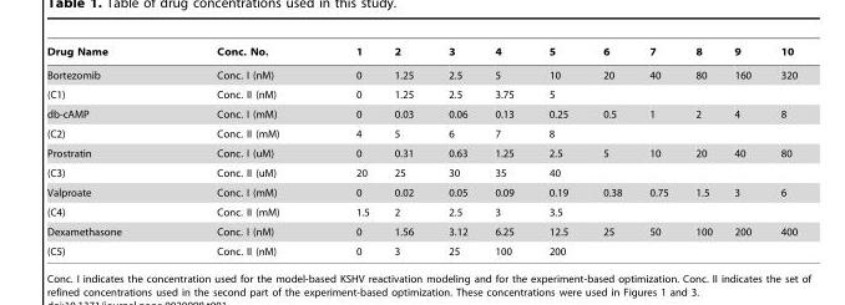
<table><thead><tr><td>Drug Name</td><td>Conc. No.</td><td>1</td><td>2</td><td>3</td><td>4</td><td>5</td><td>6</td><td>7</td><td>8</td><td>9</td><td>10</td></tr></thead><tbody><tr><td>Bortezomib</td><td>Conc. I (nM)</td><td>0</td><td>1.25</td><td>2.5</td><td>5</td><td>10</td><td>20</td><td>40</td><td>80</td><td>160</td><td>320</td></tr><tr><td>(C1)</td><td>Conc. II (nM)</td><td>0</td><td>1.25</td><td>2.5</td><td>3.75</td><td>5</td><td></td><td></td><td></td><td></td><td></td></tr><tr><td>db-cAMP</td><td>Conc. I (mM)</td><td>0</td><td>0.03</td><td>0.06</td><td>0.13</td><td>0.25</td><td>0.5</td><td>1</td><td>2</td><td>4</td><td>8</td></tr><tr><td>(C2)</td><td>Conc. II (mM)</td><td>4</td><td>5</td><td>6</td><td>7</td><td>8</td><td></td><td></td><td></td><td></td><td></td></tr><tr><td>Prostratin</td><td>Conc. I (uM)</td><td>0</td><td>0.31</td><td>0.63</td><td>1.25</td><td>2.5</td><td>5</td><td>10</td><td>20</td><td>40</td><td>80</td></tr><tr><td>(C3)</td><td>Conc. II (uM)</td><td>20</td><td>25</td><td>30</td><td>35</td><td>40</td><td></td><td></td><td></td><td></td><td></td></tr><tr><td>Valproate</td><td>Conc. I (mM)</td><td>0</td><td>0.02</td><td>0.05</td><td>0.09</td><td>0.19</td><td>0.38</td><td>0.75</td><td>1.5</td><td>3</td><td>6</td></tr><tr><td>(C4)</td><td>Conc. II (mM)</td><td>1.5</td><td>2</td><td>2.5</td><td>3</td><td>3.5</td><td></td><td></td><td></td><td></td><td></td></tr><tr><td>Dexamethasone</td><td>Conc. I (nM)</td><td>0</td><td>1.56</td><td>3.12</td><td>6.25</td><td>12.5</td><td>25</td><td>50</td><td>100</td><td>200</td><td>400</td></tr><tr><td>(C5)</td><td>Conc. II (nM)</td><td>0</td><td>3</td><td>25</td><td>100</td><td>200</td><td></td><td></td><td></td><td></td><td></td></tr></tbody></table>